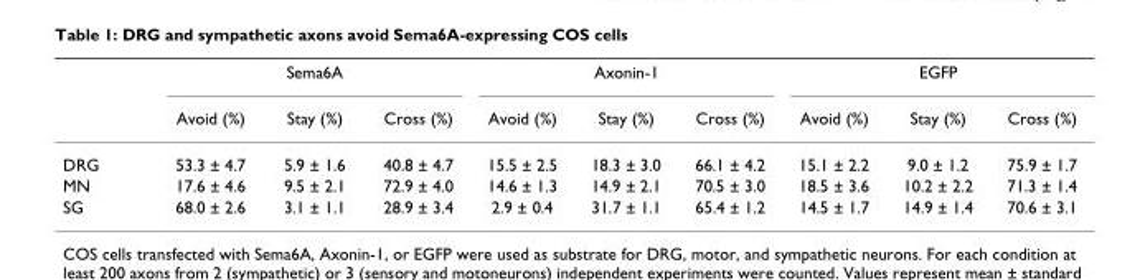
<table><thead><tr><td rowspan="2"></td><td colspan="3">Sema6A</td><td colspan="3">Axonin-1</td><td colspan="3">EGFP</td></tr><tr><td>Avoid (%)</td><td>Stay (%)</td><td>Cross (%)</td><td>Avoid (%)</td><td>Stay (%)</td><td>Cross (%)</td><td>Avoid (%)</td><td>Stay (%)</td><td>Cross (%)</td></tr></thead><tbody><tr><td>DRG</td><td>53.3 ± 4.7</td><td>5.9 ± 1.6</td><td>40.8 ± 4.7</td><td>15.5 ± 2.5</td><td>18.3 ± 3.0</td><td>66.1 ± 4.2</td><td>15.1 ± 2.2</td><td>9.0 ± 1.2</td><td>75.9 ± 1.7</td></tr><tr><td>MN</td><td>17.6 ± 4.6</td><td>9.5 ± 2.1</td><td>72.9 ± 4.0</td><td>14.6 ± 1.3</td><td>14.9 ± 2.1</td><td>70.5 ± 3.0</td><td>18.5 ± 3.6</td><td>10.2 ± 2.2</td><td>71.3 ± 1.4</td></tr><tr><td>SG</td><td>68.0 ± 2.6</td><td>3.1 ± 1.1</td><td>28.9 ± 3.4</td><td>2.9 ± 0.4</td><td>31.7 ± 1.1</td><td>65.4 ± 1.2</td><td>14.5 ± 1.7</td><td>14.9 ± 1.4</td><td>70.6 ± 3.1</td></tr></tbody></table>